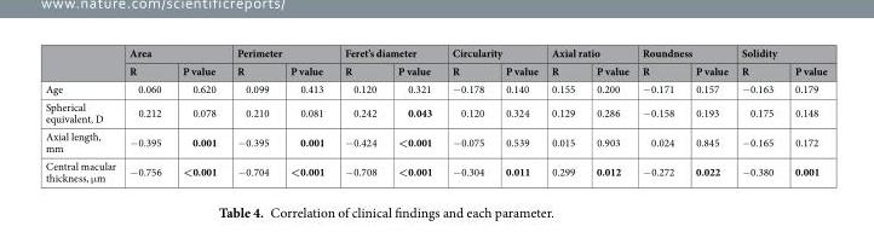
<table><thead><tr><td rowspan="2"></td><td colspan="2">Area</td><td colspan="2">Perimeter</td><td colspan="2">Feret’s diameter</td><td colspan="2">Circularity</td><td colspan="2">Axial ratio</td><td colspan="2">Roundness</td><td colspan="2">Solidity</td></tr><tr><td>R</td><td>P value</td><td>R</td><td>P value</td><td>R</td><td>P value</td><td>R</td><td>P value</td><td>R</td><td>P value</td><td>R</td><td>P value</td><td>R</td><td>P value</td></tr></thead><tbody><tr><td>Age</td><td>0.060</td><td>0.620</td><td>0.099</td><td>0.413</td><td>0.120</td><td>0.321</td><td>−0.178</td><td>0.140</td><td>0.155</td><td>0.200</td><td>−0.171</td><td>0.157</td><td>−0.163</td><td>0.179</td></tr><tr><td>Spherical equivalent, D</td><td>0.212</td><td>0.078</td><td>0.210</td><td>0.081</td><td>0.242</td><td>0.043</td><td>0.120</td><td>0.324</td><td>0.129</td><td>0.286</td><td>−0.158</td><td>0.193</td><td>0.175</td><td>0.148</td></tr><tr><td>Axial length, mm</td><td>−0.395</td><td>0.001</td><td>−0.395</td><td>0.001</td><td>−0.424</td><td>&lt;0.001</td><td>−0.075</td><td>0.539</td><td>0.015</td><td>0.903</td><td>0.024</td><td>0.845</td><td>−0.165</td><td>0.172</td></tr><tr><td>Central macular thickness, μm</td><td>−0.756</td><td>&lt;0.001</td><td>−0.704</td><td>&lt;0.001</td><td>−0.708</td><td>&lt;0.001</td><td>−0.304</td><td>0.011</td><td>0.299</td><td>0.012</td><td>−0.272</td><td>0.022</td><td>−0.380</td><td>0.001</td></tr></tbody></table>